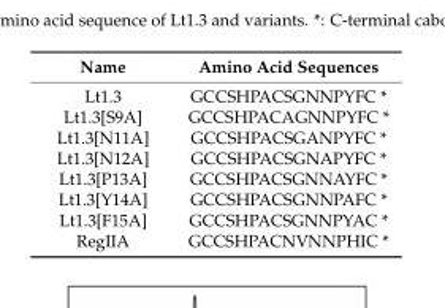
<table><thead><tr><td>Name</td><td>Amino Acid Sequences</td></tr></thead><tbody><tr><td>Lt1.3</td><td>GCCSHPACSGNNPYFC *</td></tr><tr><td>Lt1.3[S9A]</td><td>GCCSHPACAGNNPYFC *</td></tr><tr><td>Lt1.3[N11A]</td><td>GCCSHPACSGANPYFC *</td></tr><tr><td>Lt1.3[N12A]</td><td>GCCSHPACSGNAPYFC *</td></tr><tr><td>Lt1.3[P13A]</td><td>GCCSHPACSGNNAYFC *</td></tr><tr><td>Lt1.3[Y14A]</td><td>GCCSHPACSGNNPAFC *</td></tr><tr><td>Lt1.3[F15A]</td><td>GCCSHPACSGNNPYAC *</td></tr><tr><td>RegIIA</td><td>GCCSHPACNVNNPHIC *</td></tr></tbody></table>